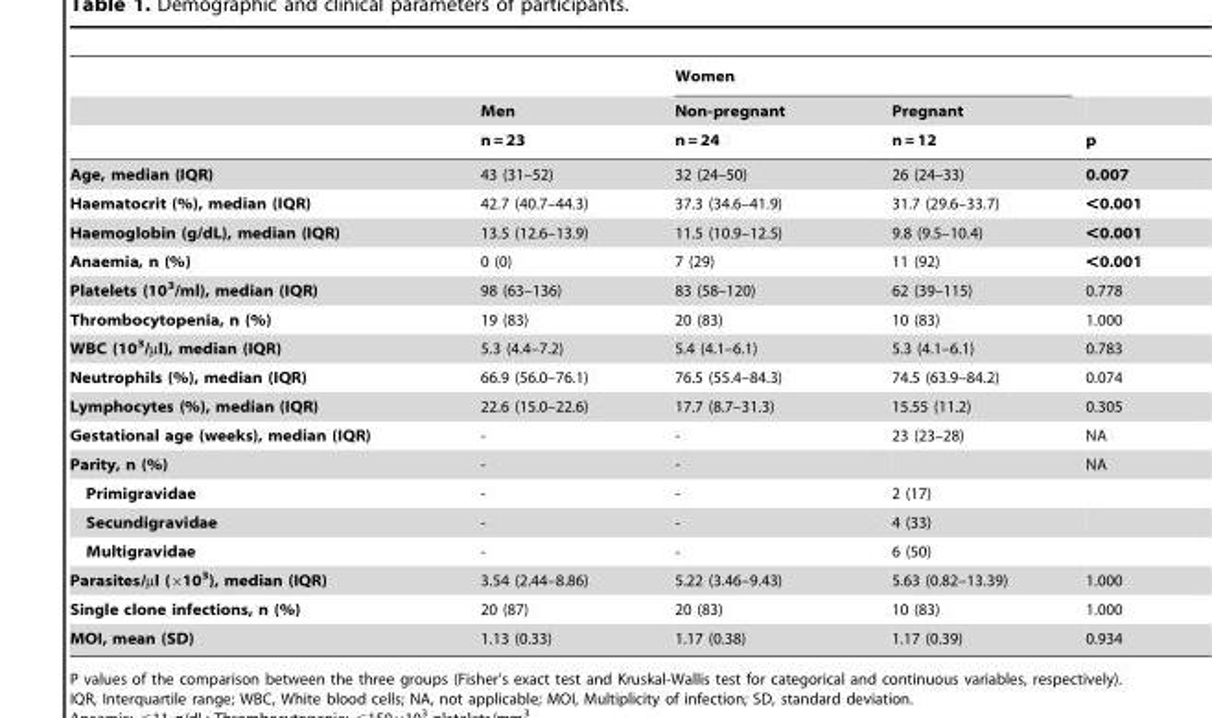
<table><thead><tr><td rowspan="3"></td><td rowspan="3">Men n = 23</td><td colspan="2">Women</td><td rowspan="3">p</td></tr><tr><td rowspan="2">Non-pregnant n = 24</td><td rowspan="2">Pregnant n = 12</td></tr><tr></tr></thead><tbody><tr><td>Age, median (IQR)</td><td>43 (31–52)</td><td>32 (24–50)</td><td>26 (24–33)</td><td>0.007</td></tr><tr><td>Haematocrit (%), median (IQR)</td><td>42.7 (40.7–44.3)</td><td>37.3 (34.6–41.9)</td><td>31.7 (29.6–33.7)</td><td>&lt;0.001</td></tr><tr><td>Haemoglobin (g/dL), median (IQR)</td><td>13.5 (12.6–13.9)</td><td>11.5 (10.9–12.5)</td><td>9.8 (9.5–10.4)</td><td>&lt;0.001</td></tr><tr><td>Anaemia, n (%)</td><td>0 (0)</td><td>7 (29)</td><td>11 (92)</td><td>&lt;0.001</td></tr><tr><td>Platelets (10<sup>3</sup>/ml), median (IQR)</td><td>98 (63–136)</td><td>83 (58–120)</td><td>62 (39–115)</td><td>0.778</td></tr><tr><td>Thrombocytopenia, n (%)</td><td>19 (83)</td><td>20 (83)</td><td>10 (83)</td><td>1.000</td></tr><tr><td>WBC (10<sup>3</sup>/µl), median (IQR)</td><td>5.3 (4.4–7.2)</td><td>5.4 (4.1–6.1)</td><td>5.3 (4.1–6.1)</td><td>0.783</td></tr><tr><td>Neutrophils (%), median (IQR)</td><td>66.9 (56.0–76.1)</td><td>76.5 (55.4–84.3)</td><td>74.5 (63.9–84.2)</td><td>0.074</td></tr><tr><td>Lymphocytes (%), median (IQR)</td><td>22.6 (15.0–22.6)</td><td>17.7 (8.7–31.3)</td><td>15.55 (11.2)</td><td>0.305</td></tr><tr><td>Gestational age (weeks), median (IQR)</td><td>-</td><td>-</td><td>23 (23–28)</td><td>NA</td></tr><tr><td>Parity, n (%)</td><td>-</td><td>-</td><td></td><td>NA</td></tr><tr><td>Primigravidae</td><td>-</td><td>-</td><td>2 (17)</td><td></td></tr><tr><td>Secundigravidae</td><td>-</td><td>-</td><td>4 (33)</td><td></td></tr><tr><td>Multigravidae</td><td>-</td><td>-</td><td>6 (50)</td><td></td></tr><tr><td>Parasites/µl (×10<sup>3</sup>), median (IQR)</td><td>3.54 (2.44–8.86)</td><td>5.22 (3.46–9.43)</td><td>5.63 (0.82–13.39)</td><td>1.000</td></tr><tr><td>Single clone infections, n (%)</td><td>20 (87)</td><td>20 (83)</td><td>10 (83)</td><td>1.000</td></tr><tr><td>MOI, mean (SD)</td><td>1.13 (0.33)</td><td>1.17 (0.38)</td><td>1.17 (0.39)</td><td>0.934</td></tr></tbody></table>